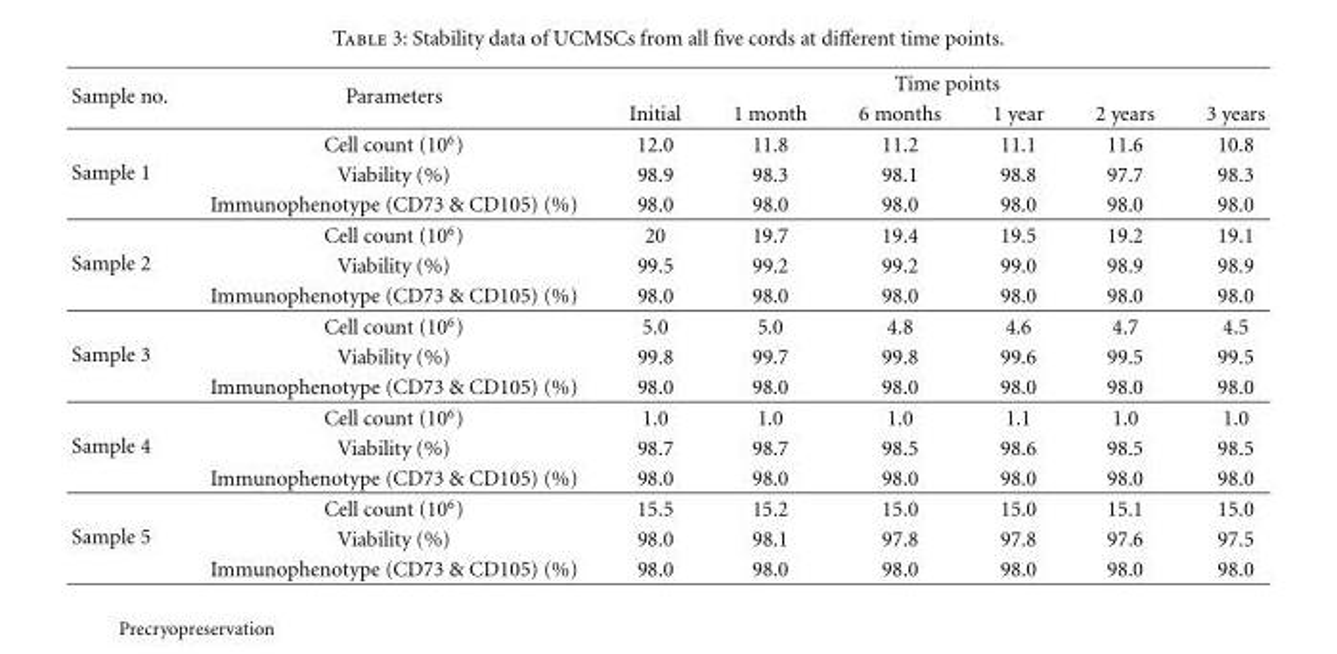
<table><thead><tr><td rowspan="2">Sample no.</td><td rowspan="2">Parameters</td><td colspan="6">Time points</td></tr><tr><td>Initial</td><td>1 month</td><td>6 months</td><td>1 year</td><td>2 years</td><td>3 years</td></tr></thead><tbody><tr><td rowspan="3">Sample 1</td><td>Cell count (10<sup>6</sup>)</td><td>12.0</td><td>11.8</td><td>11.2</td><td>11.1</td><td>11.6</td><td>10.8</td></tr><tr><td>Viability (%)</td><td>98.9</td><td>98.3</td><td>98.1</td><td>98.8</td><td>97.7</td><td>98.3</td></tr><tr><td>Immunophenotype (CD73 &amp; CD105) (%)</td><td>98.0</td><td>98.0</td><td>98.0</td><td>98.0</td><td>98.0</td><td>98.0</td></tr><tr><td rowspan="3">Sample 2</td><td>Cell count (10<sup>6</sup>)</td><td>20</td><td>19.7</td><td>19.4</td><td>19.5</td><td>19.2</td><td>19.1</td></tr><tr><td>Viability (%)</td><td>99.5</td><td>99.2</td><td>99.2</td><td>99.0</td><td>98.9</td><td>98.9</td></tr><tr><td>Immunophenotype (CD73 &amp; CD105) (%)</td><td>98.0</td><td>98.0</td><td>98.0</td><td>98.0</td><td>98.0</td><td>98.0</td></tr><tr><td rowspan="3">Sample 3</td><td>Cell count (10<sup>6</sup>)</td><td>5.0</td><td>5.0</td><td>4.8</td><td>4.6</td><td>4.7</td><td>4.5</td></tr><tr><td>Viability (%)</td><td>99.8</td><td>99.7</td><td>99.8</td><td>99.6</td><td>99.5</td><td>99.5</td></tr><tr><td>Immunophenotype (CD73 &amp; CD105) (%)</td><td>98.0</td><td>98.0</td><td>98.0</td><td>98.0</td><td>98.0</td><td>98.0</td></tr><tr><td rowspan="3">Sample 4</td><td>Cell count (10<sup>6</sup>)</td><td>1.0</td><td>1.0</td><td>1.0</td><td>1.1</td><td>1.0</td><td>1.0</td></tr><tr><td>Viability (%)</td><td>98.7</td><td>98.7</td><td>98.5</td><td>98.6</td><td>98.5</td><td>98.5</td></tr><tr><td>Immunophenotype (CD73 &amp; CD105) (%)</td><td>98.0</td><td>98.0</td><td>98.0</td><td>98.0</td><td>98.0</td><td>98.0</td></tr><tr><td rowspan="3">Sample 5</td><td>Cell count (10<sup>6</sup>)</td><td>15.5</td><td>15.2</td><td>15.0</td><td>15.0</td><td>15.1</td><td>15.0</td></tr><tr><td>Viability (%)</td><td>98.0</td><td>98.1</td><td>97.8</td><td>97.8</td><td>97.6</td><td>97.5</td></tr><tr><td>Immunophenotype (CD73 &amp; CD105) (%)</td><td>98.0</td><td>98.0</td><td>98.0</td><td>98.0</td><td>98.0</td><td>98.0</td></tr></tbody></table>